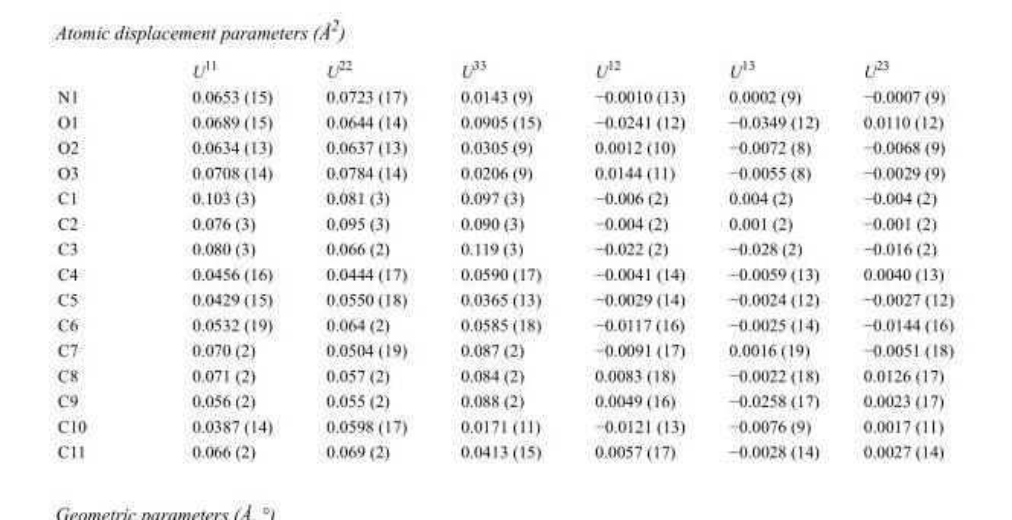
<table><thead><tr><td></td><td>U<sup>11</sup></td><td>U<sup>22</sup></td><td>U<sup>33</sup></td><td>U<sup>12</sup></td><td>U<sup>13</sup></td><td>U<sup>23</sup></td></tr></thead><tbody><tr><td>N1</td><td>0.0653 (15)</td><td>0.0723 (17)</td><td>0.0143 (9)</td><td>−0.0010 (13)</td><td>0.0002 (9)</td><td>−0.0007 (9)</td></tr><tr><td>O1</td><td>0.0689 (15)</td><td>0.0644 (14)</td><td>0.0905 (15)</td><td>−0.0241 (12)</td><td>−0.0349 (12)</td><td>0.0110 (12)</td></tr><tr><td>O2</td><td>0.0634 (13)</td><td>0.0637 (13)</td><td>0.0305 (9)</td><td>0.0012 (10)</td><td>−0.0072 (8)</td><td>−0.0068 (9)</td></tr><tr><td>O3</td><td>0.0708 (14)</td><td>0.0784 (14)</td><td>0.0206 (9)</td><td>0.0144 (11)</td><td>−0.0055 (8)</td><td>−0.0029 (9)</td></tr><tr><td>C1</td><td>0.103 (3)</td><td>0.081 (3)</td><td>0.097 (3)</td><td>−0.006 (2)</td><td>0.004 (2)</td><td>−0.004 (2)</td></tr><tr><td>C2</td><td>0.076 (3)</td><td>0.095 (3)</td><td>0.090 (3)</td><td>−0.004 (2)</td><td>0.001 (2)</td><td>−0.001 (2)</td></tr><tr><td>C3</td><td>0.080 (3)</td><td>0.066 (2)</td><td>0.119 (3)</td><td>−0.022 (2)</td><td>−0.028 (2)</td><td>−0.016 (2)</td></tr><tr><td>C4</td><td>0.0456 (16)</td><td>0.0444 (17)</td><td>0.0590 (17)</td><td>−0.0041 (14)</td><td>−0.0059 (13)</td><td>0.0040 (13)</td></tr><tr><td>C5</td><td>0.0429 (15)</td><td>0.0550 (18)</td><td>0.0365 (13)</td><td>−0.0029 (14)</td><td>−0.0024 (12)</td><td>−0.0027 (12)</td></tr><tr><td>C6</td><td>0.0532 (19)</td><td>0.064 (2)</td><td>0.0585 (18)</td><td>−0.0117 (16)</td><td>−0.0025 (14)</td><td>−0.0144 (16)</td></tr><tr><td>C7</td><td>0.070 (2)</td><td>0.0504 (19)</td><td>0.087 (2)</td><td>−0.0091 (17)</td><td>0.0016 (19)</td><td>−0.0051 (18)</td></tr><tr><td>C8</td><td>0.071 (2)</td><td>0.057 (2)</td><td>0.084 (2)</td><td>0.0083 (18)</td><td>−0.0022 (18)</td><td>0.0126 (17)</td></tr><tr><td>C9</td><td>0.056 (2)</td><td>0.055 (2)</td><td>0.088 (2)</td><td>0.0049 (16)</td><td>−0.0258 (17)</td><td>0.0023 (17)</td></tr><tr><td>C10</td><td>0.0387 (14)</td><td>0.0598 (17)</td><td>0.0171 (11)</td><td>−0.0121 (13)</td><td>−0.0076 (9)</td><td>0.0017 (11)</td></tr><tr><td>C11</td><td>0.066 (2)</td><td>0.069 (2)</td><td>0.0413 (15)</td><td>0.0057 (17)</td><td>−0.0028 (14)</td><td>0.0027 (14)</td></tr></tbody></table>